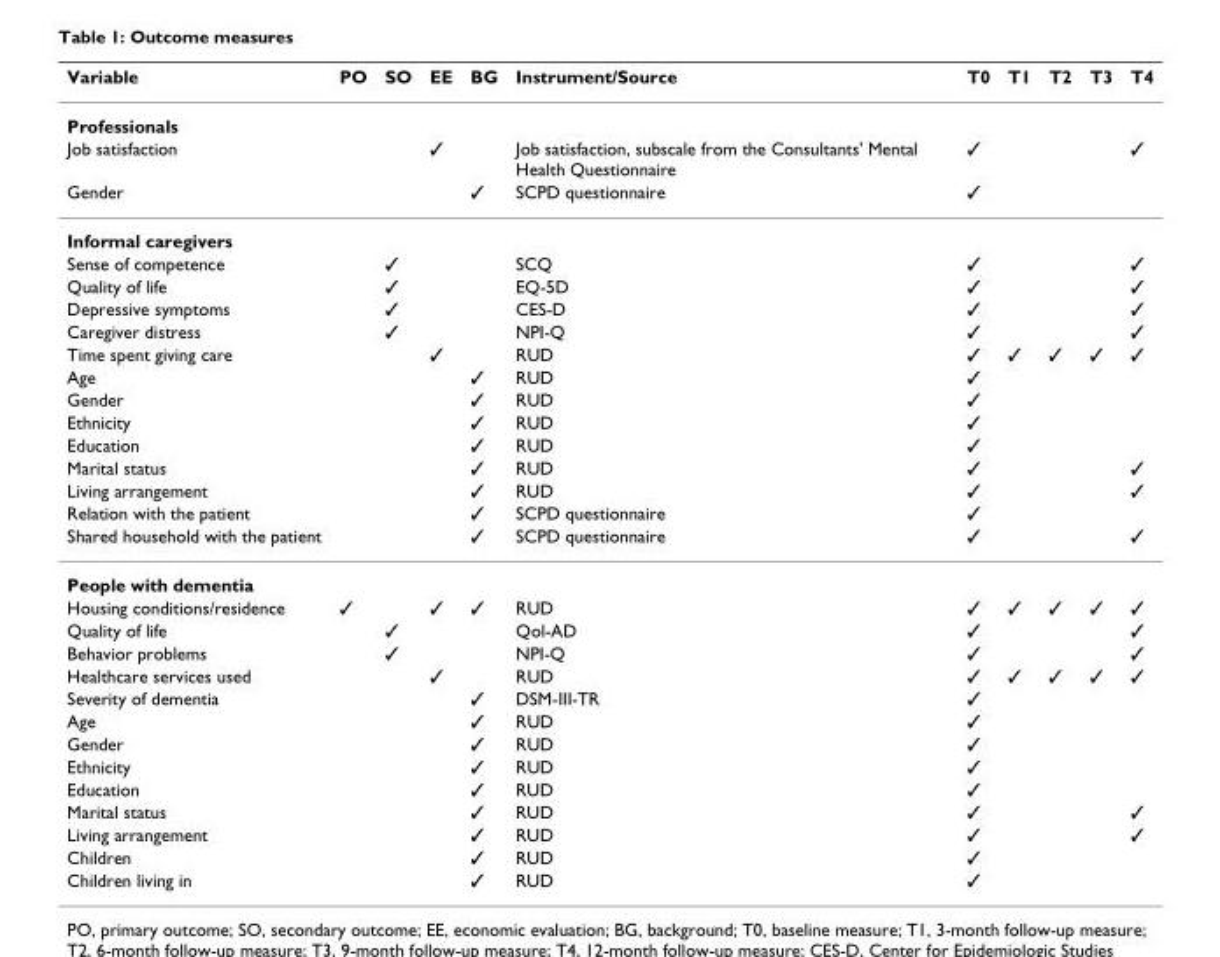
<table><thead><tr><td>Variable</td><td>PO</td><td>SO</td><td>EE</td><td>BG</td><td>Instrument/Source</td><td>T0</td><td>T1</td><td>T2</td><td>T3</td><td>T4</td></tr></thead><tbody><tr><td colspan="11">Professionals</td></tr><tr><td>Job satisfaction</td><td></td><td></td><td>✓</td><td></td><td>Job satisfaction, subscale from the Consultants&#x27; Mental Health Questionnaire</td><td>✓</td><td></td><td></td><td></td><td>✓</td></tr><tr><td>Gender</td><td></td><td></td><td></td><td>✓</td><td>SCPD questionnaire</td><td>✓</td><td></td><td></td><td></td><td></td></tr><tr><td colspan="11">Informal caregivers</td></tr><tr><td>Sense of competence</td><td></td><td>✓</td><td></td><td></td><td>SCQ</td><td>✓</td><td></td><td></td><td></td><td>✓</td></tr><tr><td>Quality of life</td><td></td><td>✓</td><td></td><td></td><td>EQ-5D</td><td>✓</td><td></td><td></td><td></td><td>✓</td></tr><tr><td>Depressive symptoms</td><td></td><td>✓</td><td></td><td></td><td>CES-D</td><td>✓</td><td></td><td></td><td></td><td>✓</td></tr><tr><td>Caregiver distress</td><td></td><td>✓</td><td></td><td></td><td>NPI-Q</td><td>✓</td><td></td><td></td><td></td><td>✓</td></tr><tr><td>Time spent giving care</td><td></td><td></td><td>✓</td><td></td><td>RUD</td><td>✓</td><td>✓</td><td>✓</td><td>✓</td><td>✓</td></tr><tr><td>Age</td><td></td><td></td><td></td><td>✓</td><td>RUD</td><td>✓</td><td></td><td></td><td></td><td></td></tr><tr><td>Gender</td><td></td><td></td><td></td><td>✓</td><td>RUD</td><td>✓</td><td></td><td></td><td></td><td></td></tr><tr><td>Ethnicity</td><td></td><td></td><td></td><td>✓</td><td>RUD</td><td>✓</td><td></td><td></td><td></td><td></td></tr><tr><td>Education</td><td></td><td></td><td></td><td>✓</td><td>RUD</td><td>✓</td><td></td><td></td><td></td><td></td></tr><tr><td>Marital status</td><td></td><td></td><td></td><td>✓</td><td>RUD</td><td>✓</td><td></td><td></td><td></td><td>✓</td></tr><tr><td>Living arrangement</td><td></td><td></td><td></td><td>✓</td><td>RUD</td><td>✓</td><td></td><td></td><td></td><td>✓</td></tr><tr><td>Relation with the patient</td><td></td><td></td><td></td><td>✓</td><td>SCPD questionnaire</td><td>✓</td><td></td><td></td><td></td><td></td></tr><tr><td>Shared household with the patient</td><td></td><td></td><td></td><td>✓</td><td>SCPD questionnaire</td><td>✓</td><td></td><td></td><td></td><td>✓</td></tr><tr><td colspan="11">People with dementia</td></tr><tr><td>Housing conditions/residence</td><td>✓</td><td></td><td>✓</td><td>✓</td><td>RUD</td><td>✓</td><td>✓</td><td>✓</td><td>✓</td><td>✓</td></tr><tr><td>Quality of life</td><td></td><td>✓</td><td></td><td></td><td>Qol-AD</td><td>✓</td><td></td><td></td><td></td><td>✓</td></tr><tr><td>Behavior problems</td><td></td><td>✓</td><td></td><td></td><td>NPI-Q</td><td>✓</td><td></td><td></td><td></td><td>✓</td></tr><tr><td>Healthcare services used</td><td></td><td></td><td>✓</td><td></td><td>RUD</td><td>✓</td><td>✓</td><td>✓</td><td>✓</td><td>✓</td></tr><tr><td>Severity of dementia</td><td></td><td></td><td></td><td>✓</td><td>DSM-III-TR</td><td>✓</td><td></td><td></td><td></td><td></td></tr><tr><td>Age</td><td></td><td></td><td></td><td>✓</td><td>RUD</td><td>✓</td><td></td><td></td><td></td><td></td></tr><tr><td>Gender</td><td></td><td></td><td></td><td>✓</td><td>RUD</td><td>✓</td><td></td><td></td><td></td><td></td></tr><tr><td>Ethnicity</td><td></td><td></td><td></td><td>✓</td><td>RUD</td><td>✓</td><td></td><td></td><td></td><td></td></tr><tr><td>Education</td><td></td><td></td><td></td><td>✓</td><td>RUD</td><td>✓</td><td></td><td></td><td></td><td></td></tr><tr><td>Marital status</td><td></td><td></td><td></td><td>✓</td><td>RUD</td><td>✓</td><td></td><td></td><td></td><td>✓</td></tr><tr><td>Living arrangement</td><td></td><td></td><td></td><td>✓</td><td>RUD</td><td>✓</td><td></td><td></td><td></td><td>✓</td></tr><tr><td>Children</td><td></td><td></td><td></td><td>✓</td><td>RUD</td><td>✓</td><td></td><td></td><td></td><td></td></tr><tr><td>Children living in</td><td></td><td></td><td></td><td>✓</td><td>RUD</td><td>✓</td><td></td><td></td><td></td><td></td></tr></tbody></table>